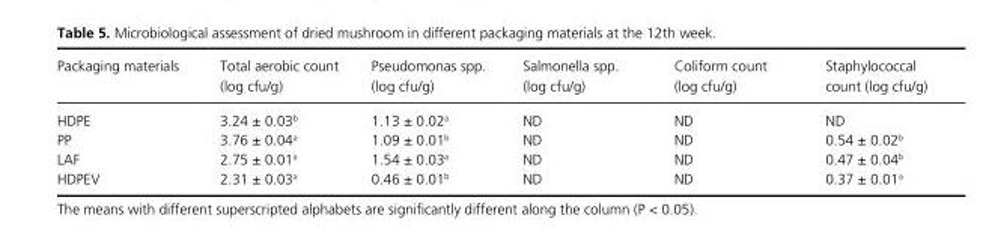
<table><thead><tr><td>Packaging materials</td><td>Total aerobic count (log cfu/g)</td><td>Pseudomonas spp. (log cfu/g)</td><td>Salmonella spp. (log cfu/g)</td><td>Coliform count (log cfu/g)</td><td>Staphylococcal count (log cfu/g)</td></tr></thead><tbody><tr><td>HDPE</td><td>3.24 ± 0.03 <sup>b</sup></td><td>1.13 ± 0.02 <sup>a</sup></td><td>ND</td><td>ND</td><td>ND</td></tr><tr><td>PP</td><td>3.76 ± 0.04 <sup>a</sup></td><td>1.09 ± 0.01 <sup>b</sup></td><td>ND</td><td>ND</td><td>0.54 ± 0.02 <sup>b</sup></td></tr><tr><td>LAF</td><td>2.75 ± 0.01 <sup>a</sup></td><td>1.54 ± 0.03 <sup>a</sup></td><td>ND</td><td>ND</td><td>0.47 ± 0.04 <sup>b</sup></td></tr><tr><td>HDPEV</td><td>2.31 ± 0.03 <sup>a</sup></td><td>0.46 ± 0.01 <sup>b</sup></td><td>ND</td><td>ND</td><td>0.37 ± 0.01 <sup>a</sup></td></tr></tbody></table>